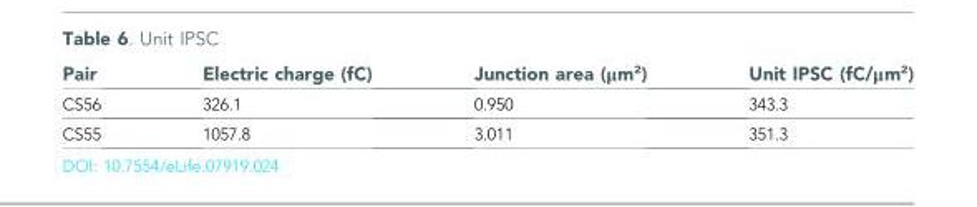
<table><thead><tr><td>Pair</td><td>Electric charge (fC)</td><td>Junction area (μm<sup>2</sup>)</td><td>Unit IPSC (fC/μm<sup>2</sup>)</td></tr></thead><tbody><tr><td>CS56</td><td>326.1</td><td>0.950</td><td>343.3</td></tr><tr><td>CS55</td><td>1057.8</td><td>3.011</td><td>351.3</td></tr></tbody></table>